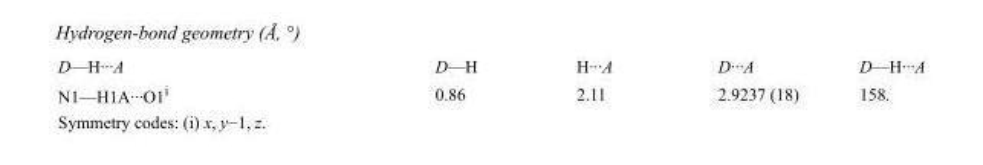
<table><tbody><tr><td>D—H···A</td><td>D—H</td><td>H···A</td><td>D···A</td><td>D—H···A</td></tr><tr><td>N1—H1A···O1<sup>i</sup></td><td>0.86</td><td>2.11</td><td>2.9237 (18)</td><td>158.</td></tr></tbody></table>